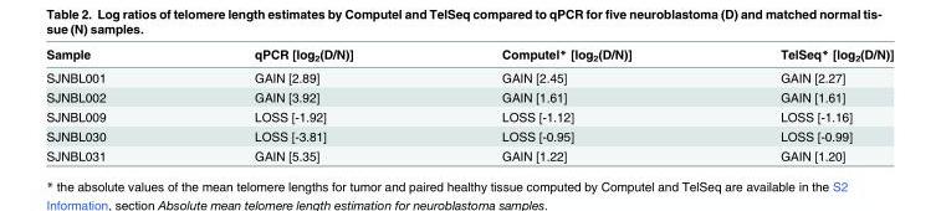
<table><thead><tr><td>Sample</td><td>qPCR [log<sub>2</sub>(D/N)]</td><td>Computel* [log<sub>2</sub>(D/N)]</td><td>TelSeq* [log<sub>2</sub>(D/N)]</td></tr></thead><tbody><tr><td>SJNBL001</td><td>GAIN [2.89]</td><td>GAIN [2.45]</td><td>GAIN [2.27]</td></tr><tr><td>SJNBL002</td><td>GAIN [3.92]</td><td>GAIN [1.61]</td><td>GAIN [1.61]</td></tr><tr><td>SJNBL009</td><td>LOSS [-1.92]</td><td>LOSS [-1.12]</td><td>LOSS [-1.16]</td></tr><tr><td>SJNBL030</td><td>LOSS [-3.81]</td><td>LOSS [-0.95]</td><td>LOSS [-0.99]</td></tr><tr><td>SJNBL031</td><td>GAIN [5.35]</td><td>GAIN [1.22]</td><td>GAIN [1.20]</td></tr></tbody></table>